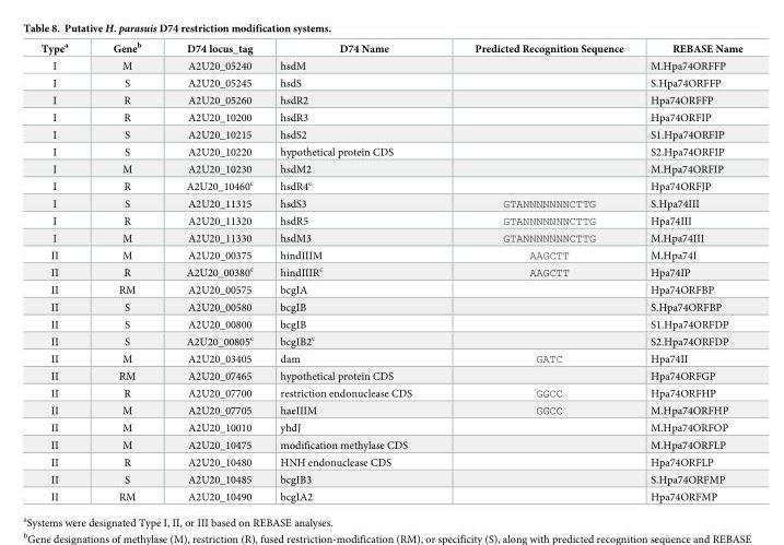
<table><thead><tr><td>Type<sup>a</sup></td><td>Gene<sup>b</sup></td><td>D74 locus_tag</td><td>D74 Name</td><td>Predicted Recognition Sequence</td><td>REBASE Name</td></tr></thead><tbody><tr><td>I</td><td>M</td><td>A2U20_05240</td><td>hsdM</td><td></td><td>M.Hpa74ORFFP</td></tr><tr><td>I</td><td>S</td><td>A2U20_05245</td><td>hsdS</td><td></td><td>S.Hpa74ORFFP</td></tr><tr><td>I</td><td>R</td><td>A2U20_05260</td><td>hsdR2</td><td></td><td>Hpa74ORFFP</td></tr><tr><td>I</td><td>R</td><td>A2U20_10200</td><td>hsdR3</td><td></td><td>Hpa74ORFIP</td></tr><tr><td>I</td><td>S</td><td>A2U20_10215</td><td>hsdS2</td><td></td><td>S1.Hpa74ORFIP</td></tr><tr><td>I</td><td>S</td><td>A2U20_10220</td><td>hypothetical protein CDS</td><td></td><td>S2.Hpa74ORFIP</td></tr><tr><td>I</td><td>M</td><td>A2U20_10230</td><td>hsdM2</td><td></td><td>M.Hpa74ORFIP</td></tr><tr><td>I</td><td>R</td><td>A2U20_10460<sup>c</sup></td><td>hsdR4<sup>c</sup></td><td></td><td>Hpa74ORFJP</td></tr><tr><td>I</td><td>S</td><td>A2U20_11315</td><td>hsdS3</td><td>GTANNNNNNNCTTG</td><td>S.Hpa74III</td></tr><tr><td>I</td><td>R</td><td>A2U20_11320</td><td>hsdR5</td><td>GTANNNNNNNCTTG</td><td>Hpa74III</td></tr><tr><td>I</td><td>M</td><td>A2U20_11330</td><td>hsdM3</td><td>GTANNNNNNNCTTG</td><td>M.Hpa74III</td></tr><tr><td>II</td><td>M</td><td>A2U20_00375</td><td>hindIIIM</td><td>AAGCTT</td><td>M.Hpa74I</td></tr><tr><td>II</td><td>R</td><td>A2U20_00380<sup>c</sup></td><td>hindIIIR<sup>c</sup></td><td>AAGCTT</td><td>Hpa74IP</td></tr><tr><td>II</td><td>RM</td><td>A2U20_00575</td><td>bcgIA</td><td></td><td>Hpa74ORFBP</td></tr><tr><td>II</td><td>S</td><td>A2U20_00580</td><td>bcgIB</td><td></td><td>S.Hpa74ORFBP</td></tr><tr><td>II</td><td>S</td><td>A2U20_00800</td><td>bcgIB</td><td></td><td>S1.Hpa74ORFDP</td></tr><tr><td>II</td><td>S</td><td>A2U20_00805<sup>c</sup></td><td>bcgIB2<sup>c</sup></td><td></td><td>S2.Hpa74ORFDP</td></tr><tr><td>II</td><td>M</td><td>A2U20_03405</td><td>dam</td><td>GATC</td><td>Hpa74II</td></tr><tr><td>II</td><td>RM</td><td>A2U20_07465</td><td>hypothetical protein CDS</td><td></td><td>Hpa74ORFGP</td></tr><tr><td>II</td><td>R</td><td>A2U20_07700</td><td>restriction endonuclease CDS</td><td>GGCC</td><td>Hpa74ORFHP</td></tr><tr><td>II</td><td>M</td><td>A2U20_07705</td><td>haeIIIM</td><td>GGCC</td><td>M.Hpa74ORFHP</td></tr><tr><td>II</td><td>M</td><td>A2U20_10010</td><td>yhdJ</td><td></td><td>M.Hpa74ORFOP</td></tr><tr><td>II</td><td>M</td><td>A2U20_10475</td><td>modification methylase CDS</td><td></td><td>M.Hpa74ORFLP</td></tr><tr><td>II</td><td>R</td><td>A2U20_10480</td><td>HNH endonuclease CDS</td><td></td><td>Hpa74ORFLP</td></tr><tr><td>II</td><td>S</td><td>A2U20_10485</td><td>bcgIB3</td><td></td><td>S.Hpa74ORFMP</td></tr><tr><td>II</td><td>RM</td><td>A2U20_10490</td><td>bcgIA2</td><td></td><td>Hpa74ORFMP</td></tr></tbody></table>